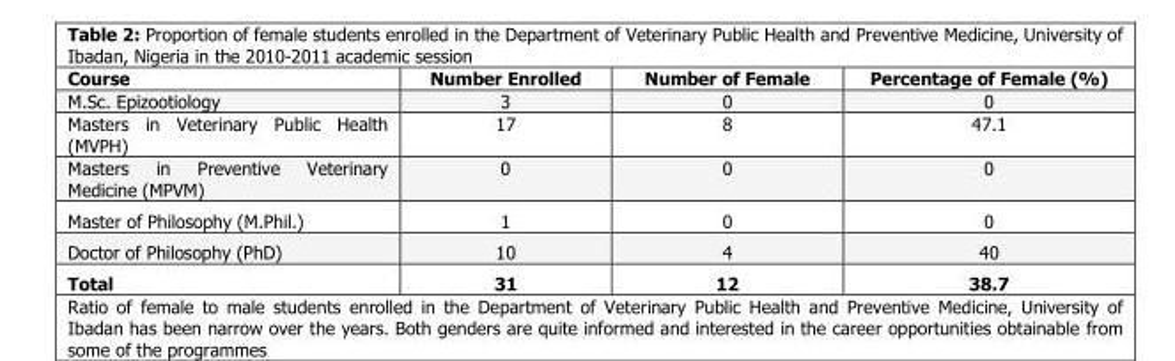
<table><thead><tr><td>Course</td><td>Number Enrolled</td><td>Number of Female</td><td>Percentage of Female (%)</td></tr></thead><tbody><tr><td>M.Sc. Epizootiology</td><td>3</td><td>0</td><td>0</td></tr><tr><td>Masters in Veterinary Public Health (MVPH)</td><td>17</td><td>8</td><td>47.1</td></tr><tr><td>Masters in Preventive Veterinary Medicine (MPVM)</td><td>0</td><td>0</td><td>0</td></tr><tr><td>Master of Philosophy (M.Phil.)</td><td>1</td><td>0</td><td>0</td></tr><tr><td>Doctor of Philosophy (PhD)</td><td>10</td><td>4</td><td>40</td></tr><tr><td>Total</td><td>31</td><td>12</td><td>38.7</td></tr></tbody></table>